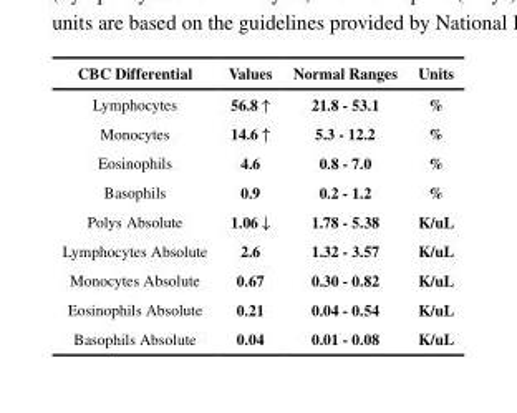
<table><thead><tr><td>CBC Differential</td><td>Values</td><td>Normal Ranges</td><td>Units</td></tr></thead><tbody><tr><td>Lymphocytes</td><td>56.8 ↑</td><td>21.8 - 53.1</td><td>%</td></tr><tr><td>Monocytes</td><td>14.6 ↑</td><td>5.3 - 12.2</td><td>%</td></tr><tr><td>Eosinophils</td><td>4.6</td><td>0.8 - 7.0</td><td>%</td></tr><tr><td>Basophils</td><td>0.9</td><td>0.2 - 1.2</td><td>%</td></tr><tr><td>Polys Absolute</td><td>1.06 ↓</td><td>1.78 - 5.38</td><td>K/uL</td></tr><tr><td>Lymphocytes Absolute</td><td>2.6</td><td>1.32 - 3.57</td><td>K/uL</td></tr><tr><td>Monocytes Absolute</td><td>0.67</td><td>0.30 - 0.82</td><td>K/uL</td></tr><tr><td>Eosinophils Absolute</td><td>0.21</td><td>0.04 - 0.54</td><td>K/uL</td></tr><tr><td>Basophils Absolute</td><td>0.04</td><td>0.01 - 0.08</td><td>K/uL</td></tr></tbody></table>